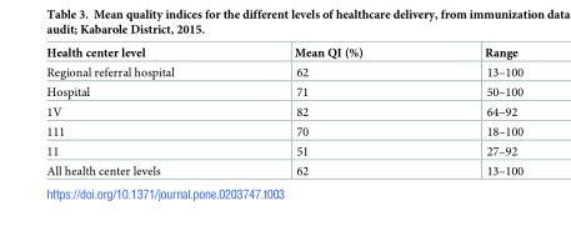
<table><thead><tr><td>Health center level</td><td>Mean QI (%)</td><td>Range</td></tr></thead><tbody><tr><td>Regional referral hospital</td><td>62</td><td>13–100</td></tr><tr><td>Hospital</td><td>71</td><td>50–100</td></tr><tr><td>1V</td><td>82</td><td>64–92</td></tr><tr><td>111</td><td>70</td><td>18–100</td></tr><tr><td>11</td><td>51</td><td>27–92</td></tr><tr><td>All health center levels</td><td>62</td><td>13–100</td></tr></tbody></table>